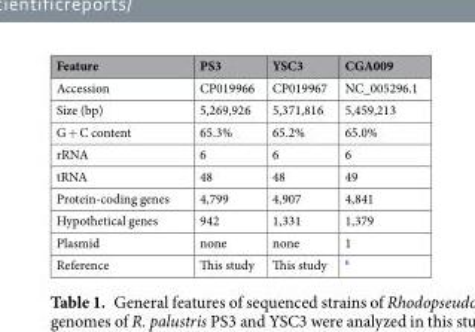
<table><thead><tr><td>Feature</td><td>PS3</td><td>YSC3</td><td>CGA009</td></tr></thead><tbody><tr><td>Accession</td><td>CP019966</td><td>CP019967</td><td>NC_005296.1</td></tr><tr><td>Size (bp)</td><td>5,269,926</td><td>5,371,816</td><td>5,459,213</td></tr><tr><td>G + C content</td><td>65.3%</td><td>65.2%</td><td>65.0%</td></tr><tr><td>rRNA</td><td>6</td><td>6</td><td>6</td></tr><tr><td>tRNA</td><td>48</td><td>48</td><td>49</td></tr><tr><td>Protein-coding genes</td><td>4,799</td><td>4,907</td><td>4,841</td></tr><tr><td>Hypothetical genes</td><td>942</td><td>1,331</td><td>1,379</td></tr><tr><td>Plasmid</td><td>none</td><td>none</td><td>1</td></tr><tr><td>Reference</td><td>This study</td><td>This study</td><td><sup>6</sup></td></tr></tbody></table>